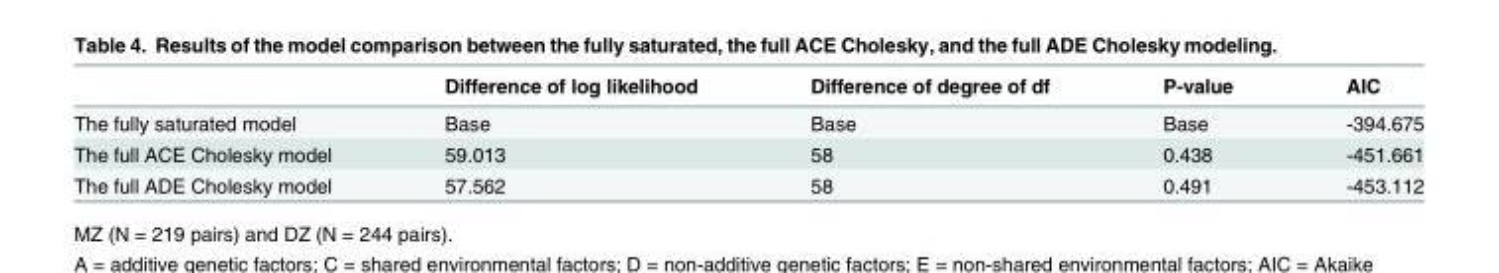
<table><thead><tr><td></td><td>Difference of log likelihood</td><td>Difference of degree of df</td><td>P-value</td><td>AIC</td></tr></thead><tbody><tr><td>The fully saturated model</td><td>Base</td><td>Base</td><td>Base</td><td>-394.675</td></tr><tr><td>The full ACE Cholesky model</td><td>59.013</td><td>58</td><td>0.438</td><td>-451.661</td></tr><tr><td>The full ADE Cholesky model</td><td>57.562</td><td>58</td><td>0.491</td><td>-453.112</td></tr></tbody></table>